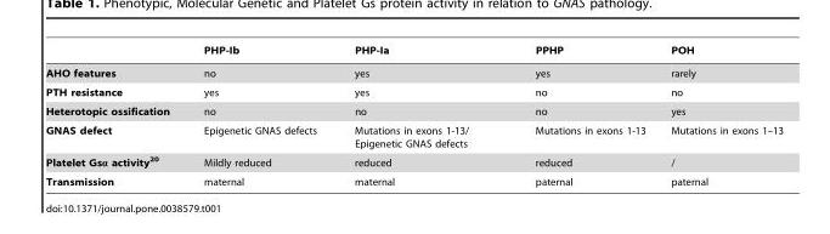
<table><thead><tr><td></td><td>PHP-Ib</td><td>PHP-Ia</td><td>PPHP</td><td>POH</td></tr></thead><tbody><tr><td>AHO features</td><td>no</td><td>yes</td><td>yes</td><td>rarely</td></tr><tr><td>PTH resistance</td><td>yes</td><td>yes</td><td>no</td><td>no</td></tr><tr><td>Heterotopic ossification</td><td>no</td><td>no</td><td>no</td><td>yes</td></tr><tr><td>GNAS defect</td><td>Epigenetic GNAS defects</td><td>Mutations in exons 1-13/ Epigenetic GNAS defects</td><td>Mutations in exons 1-13</td><td>Mutations in exons 1–13</td></tr><tr><td>Platelet Gsα activity<sup>20</sup></td><td>Mildly reduced</td><td>reduced</td><td>reduced</td><td>/</td></tr><tr><td>Transmission</td><td>maternal</td><td>maternal</td><td>paternal</td><td>paternal</td></tr></tbody></table>